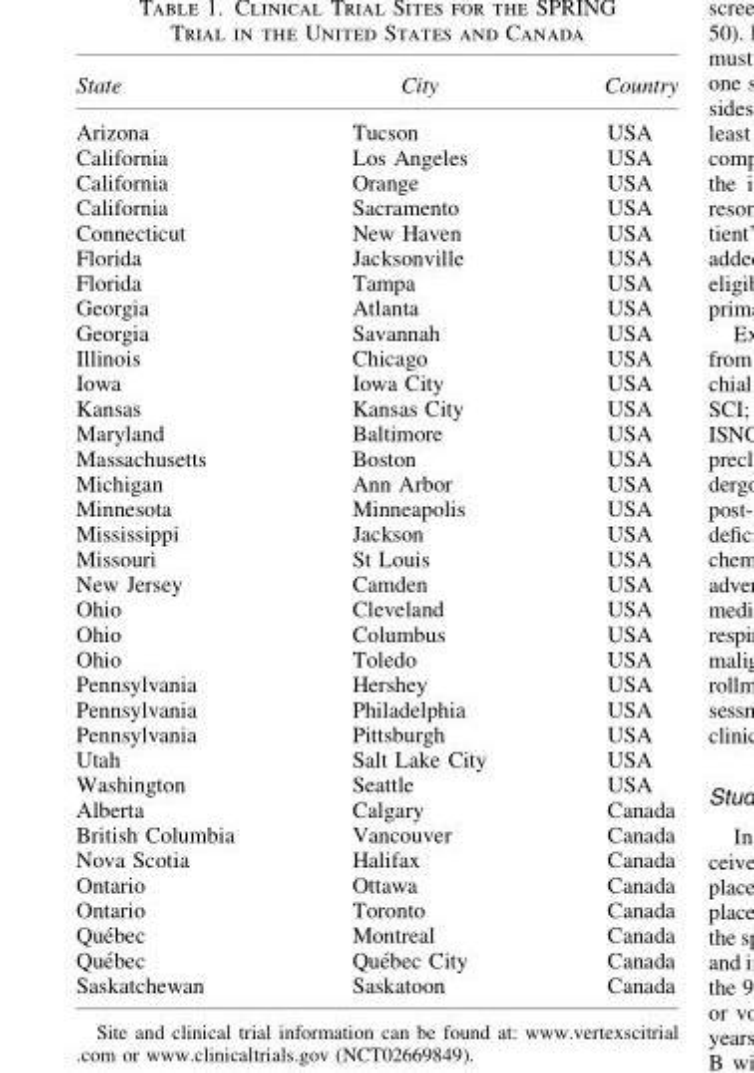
<table><thead><tr><td>State</td><td>City</td><td>Country</td></tr></thead><tbody><tr><td>Arizona</td><td>Tucson</td><td>USA</td></tr><tr><td>California</td><td>Los Angeles</td><td>USA</td></tr><tr><td>California</td><td>Orange</td><td>USA</td></tr><tr><td>California</td><td>Sacramento</td><td>USA</td></tr><tr><td>Connecticut</td><td>New Haven</td><td>USA</td></tr><tr><td>Florida</td><td>Jacksonville</td><td>USA</td></tr><tr><td>Florida</td><td>Tampa</td><td>USA</td></tr><tr><td>Georgia</td><td>Atlanta</td><td>USA</td></tr><tr><td>Georgia</td><td>Savannah</td><td>USA</td></tr><tr><td>Illinois</td><td>Chicago</td><td>USA</td></tr><tr><td>Iowa</td><td>Iowa City</td><td>USA</td></tr><tr><td>Kansas</td><td>Kansas City</td><td>USA</td></tr><tr><td>Maryland</td><td>Baltimore</td><td>USA</td></tr><tr><td>Massachusetts</td><td>Boston</td><td>USA</td></tr><tr><td>Michigan</td><td>Ann Arbor</td><td>USA</td></tr><tr><td>Minnesota</td><td>Minneapolis</td><td>USA</td></tr><tr><td>Mississippi</td><td>Jackson</td><td>USA</td></tr><tr><td>Missouri</td><td>St Louis</td><td>USA</td></tr><tr><td>New Jersey</td><td>Camden</td><td>USA</td></tr><tr><td>Ohio</td><td>Cleveland</td><td>USA</td></tr><tr><td>Ohio</td><td>Columbus</td><td>USA</td></tr><tr><td>Ohio</td><td>Toledo</td><td>USA</td></tr><tr><td>Pennsylvania</td><td>Hershey</td><td>USA</td></tr><tr><td>Pennsylvania</td><td>Philadelphia</td><td>USA</td></tr><tr><td>Pennsylvania</td><td>Pittsburgh</td><td>USA</td></tr><tr><td>Utah</td><td>Salt Lake City</td><td>USA</td></tr><tr><td>Washington</td><td>Seattle</td><td>USA</td></tr><tr><td>Alberta</td><td>Calgary</td><td>Canada</td></tr><tr><td>British Columbia</td><td>Vancouver</td><td>Canada</td></tr><tr><td>Nova Scotia</td><td>Halifax</td><td>Canada</td></tr><tr><td>Ontario</td><td>Ottawa</td><td>Canada</td></tr><tr><td>Ontario</td><td>Toronto</td><td>Canada</td></tr><tr><td>Que´bec</td><td>Montreal</td><td>Canada</td></tr><tr><td>Que´bec</td><td>Que´bec City</td><td>Canada</td></tr><tr><td>Saskatchewan</td><td>Saskatoon</td><td>Canada</td></tr></tbody></table>